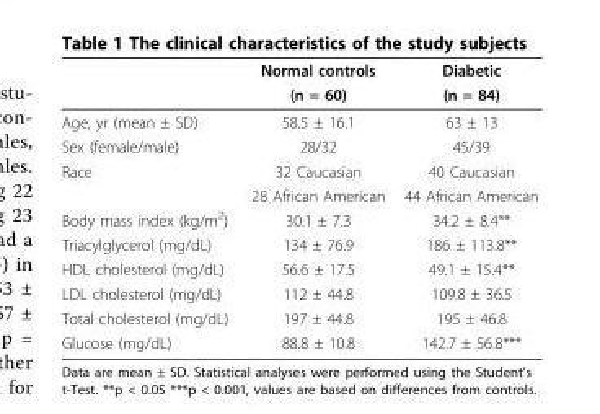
<table><thead><tr><td rowspan="2"></td><td rowspan="2">Normal controls (n = 60)</td><td rowspan="2">Diabetic (n = 84)</td></tr><tr></tr></thead><tbody><tr><td>Age, yr (mean ± SD)</td><td>58.5 ± 16.1</td><td>63 ± 13</td></tr><tr><td>Sex (female/male)</td><td>28/32</td><td>45/39</td></tr><tr><td rowspan="2">Race</td><td>32 Caucasian</td><td>40 Caucasian</td></tr><tr><td>28 African American</td><td>44 African American</td></tr><tr><td>Body mass index (kg/m<sup>2</sup>)</td><td>30.1 ± 7.3</td><td>34.2 ± 8.4**</td></tr><tr><td>Triacylglycerol (mg/dL)</td><td>134 ± 76.9</td><td>186 ± 113.8**</td></tr><tr><td>HDL cholesterol (mg/dL)</td><td>56.6 ± 17.5</td><td>49.1 ± 15.4**</td></tr><tr><td>LDL cholesterol (mg/dL)</td><td>112 ± 44.8</td><td>109.8 ± 36.5</td></tr><tr><td>Total cholesterol (mg/dL)</td><td>197 ± 44.8</td><td>195 ± 46.8</td></tr><tr><td>Glucose (mg/dL)</td><td>88.8 ± 10.8</td><td>142.7 ± 56.8***</td></tr></tbody></table>